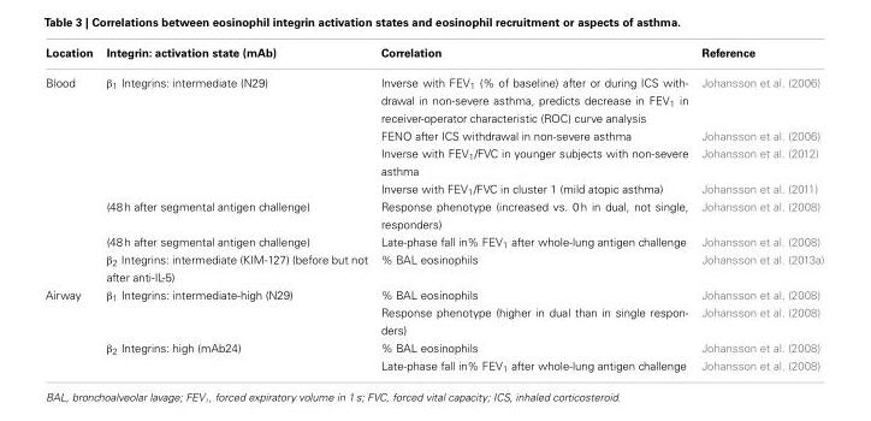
<table><thead><tr><td>Location</td><td>Integrin: activation state (mAb)</td><td>Correlation</td><td>Reference</td></tr></thead><tbody><tr><td rowspan="7">Blood</td><td>β<sub>1</sub> Integrins: intermediate (N29)</td><td>Inverse with FEV1 (% of baseline) after or during ICS with- drawal in non-severe asthma, predicts decrease in FEV1 in receiver-operator characteristic (ROC) curve analysis</td><td>Johansson et al. (2006)</td></tr><tr><td></td><td>FENO after ICS withdrawal in non-severe asthma</td><td>Johansson et al. (2006)</td></tr><tr><td></td><td>Inverse with FEV<sub>1</sub>/FVC in younger subjects with non-severe asthma</td><td>Johansson et al. (2012)</td></tr><tr><td></td><td>Inverse with FEV<sub>1</sub>/FVC in cluster 1 (mild atopic asthma)</td><td>Johansson et al. (2011)</td></tr><tr><td>(48 h after segmental antigen challenge)</td><td>Response phenotype (increased vs. 0 h in dual, not single, responders)</td><td>Johansson et al. (2008)</td></tr><tr><td>(48 h after segmental antigen challenge)</td><td>Late-phase fall in% FEV<sub>1</sub> after whole-lung antigen challenge</td><td>Johansson et al. (2008)</td></tr><tr><td>β<sub>2</sub> Integrins: intermediate (KIM-127) (before but not after anti-IL-5)</td><td>% BAL eosinophils</td><td>Johansson et al. (2013a)</td></tr><tr><td rowspan="4">Airway</td><td>β<sub>1</sub> Integrins: intermediate-high (N29)</td><td>% BAL eosinophils</td><td>Johansson et al. (2008)</td></tr><tr><td></td><td>Response phenotype (higher in dual than in single respon- ders)</td><td>Johansson et al. (2008)</td></tr><tr><td>β<sub>2</sub> Integrins: high (mAb24)</td><td>% BAL eosinophils</td><td>Johansson et al. (2008)</td></tr><tr><td></td><td>Late-phase fall in% FEV<sub>1</sub> after whole-lung antigen challenge</td><td>Johansson et al. (2008)</td></tr></tbody></table>